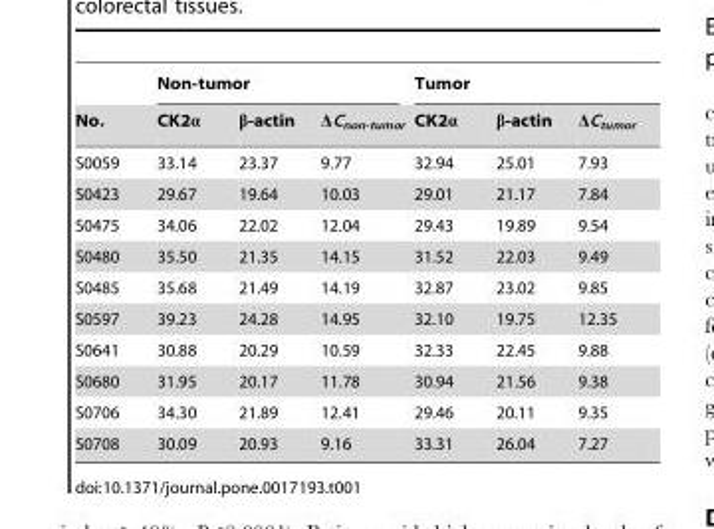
<table><thead><tr><td rowspan="2">No.</td><td colspan="3">Non-tumor</td><td colspan="3">Tumor</td></tr><tr><td>CK2α</td><td>β-actin</td><td>ΔC<sub>non-tumor</sub></td><td>CK2α</td><td>β-actin</td><td>ΔC<sub>tumor</sub></td></tr></thead><tbody><tr><td>S0059</td><td>33.14</td><td>23.37</td><td>9.77</td><td>32.94</td><td>25.01</td><td>7.93</td></tr><tr><td>S0423</td><td>29.67</td><td>19.64</td><td>10.03</td><td>29.01</td><td>21.17</td><td>7.84</td></tr><tr><td>S0475</td><td>34.06</td><td>22.02</td><td>12.04</td><td>29.43</td><td>19.89</td><td>9.54</td></tr><tr><td>S0480</td><td>35.50</td><td>21.35</td><td>14.15</td><td>31.52</td><td>22.03</td><td>9.49</td></tr><tr><td>S0485</td><td>35.68</td><td>21.49</td><td>14.19</td><td>32.87</td><td>23.02</td><td>9.85</td></tr><tr><td>S0597</td><td>39.23</td><td>24.28</td><td>14.95</td><td>32.10</td><td>19.75</td><td>12.35</td></tr><tr><td>S0641</td><td>30.88</td><td>20.29</td><td>10.59</td><td>32.33</td><td>22.45</td><td>9.88</td></tr><tr><td>S0680</td><td>31.95</td><td>20.17</td><td>11.78</td><td>30.94</td><td>21.56</td><td>9.38</td></tr><tr><td>S0706</td><td>34.30</td><td>21.89</td><td>12.41</td><td>29.46</td><td>20.11</td><td>9.35</td></tr><tr><td>S0708</td><td>30.09</td><td>20.93</td><td>9.16</td><td>33.31</td><td>26.04</td><td>7.27</td></tr></tbody></table>